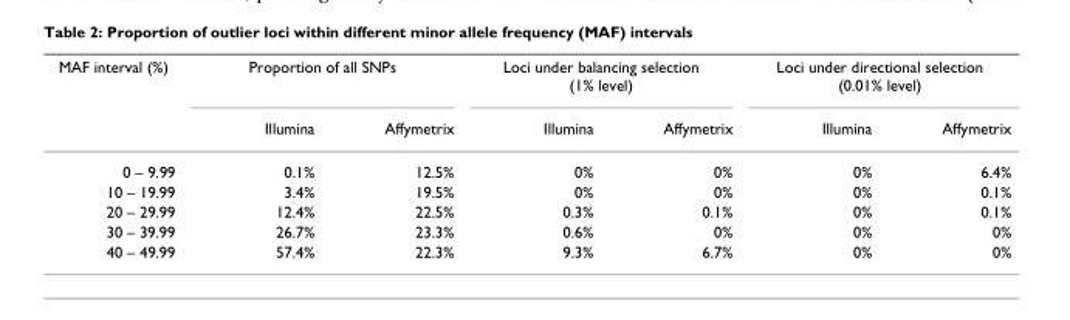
<table><thead><tr><td rowspan="2">MAF interval (%)</td><td colspan="2">Proportion of all SNPs</td><td colspan="2">Loci under balancing selection (1% level)</td><td colspan="2">Loci under directional selection (0.01% level)</td></tr><tr><td>Illumina</td><td>Affymetrix</td><td>Illumina</td><td>Affymetrix</td><td>Illumina</td><td>Affymetrix</td></tr></thead><tbody><tr><td>0 – 9.99</td><td>0.1%</td><td>12.5%</td><td>0%</td><td>0%</td><td>0%</td><td>6.4%</td></tr><tr><td>10 – 19.99</td><td>3.4%</td><td>19.5%</td><td>0%</td><td>0%</td><td>0%</td><td>0.1%</td></tr><tr><td>20 – 29.99</td><td>12.4%</td><td>22.5%</td><td>0.3%</td><td>0.1%</td><td>0%</td><td>0.1%</td></tr><tr><td>30 – 39.99</td><td>26.7%</td><td>23.3%</td><td>0.6%</td><td>0%</td><td>0%</td><td>0%</td></tr><tr><td>40 – 49.99</td><td>57.4%</td><td>22.3%</td><td>9.3%</td><td>6.7%</td><td>0%</td><td>0%</td></tr></tbody></table>